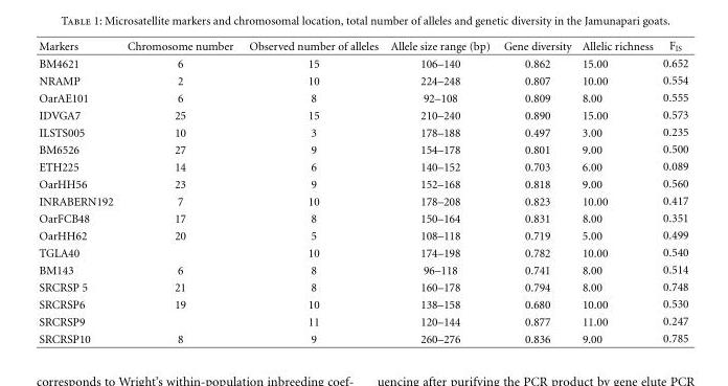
<table><thead><tr><td>Markers</td><td>Chromosome number</td><td>Observed number of alleles</td><td>Allele size range (bp)</td><td>Gene diversity</td><td>Allelic richness</td><td>F<sub>IS</sub></td></tr></thead><tbody><tr><td>BM4621</td><td>6</td><td>15</td><td>106–140</td><td>0.862</td><td>15.00</td><td>0.652</td></tr><tr><td>NRAMP</td><td>2</td><td>10</td><td>224–248</td><td>0.807</td><td>10.00</td><td>0.554</td></tr><tr><td>OarAE101</td><td>6</td><td>8</td><td>92–108</td><td>0.809</td><td>8.00</td><td>0.555</td></tr><tr><td>IDVGA7</td><td>25</td><td>15</td><td>210–240</td><td>0.890</td><td>15.00</td><td>0.573</td></tr><tr><td>ILSTS005</td><td>10</td><td>3</td><td>178–188</td><td>0.497</td><td>3.00</td><td>0.235</td></tr><tr><td>BM6526</td><td>27</td><td>9</td><td>154–178</td><td>0.801</td><td>9.00</td><td>0.500</td></tr><tr><td>ETH225</td><td>14</td><td>6</td><td>140–152</td><td>0.703</td><td>6.00</td><td>0.089</td></tr><tr><td>OarHH56</td><td>23</td><td>9</td><td>152–168</td><td>0.818</td><td>9.00</td><td>0.560</td></tr><tr><td>INRABERN192</td><td>7</td><td>10</td><td>178–208</td><td>0.823</td><td>10.00</td><td>0.417</td></tr><tr><td>OarFCB48</td><td>17</td><td>8</td><td>150–164</td><td>0.831</td><td>8.00</td><td>0.351</td></tr><tr><td>OarHH62</td><td>20</td><td>5</td><td>108–118</td><td>0.719</td><td>5.00</td><td>0.499</td></tr><tr><td>TGLA40</td><td></td><td>10</td><td>174–198</td><td>0.782</td><td>10.00</td><td>0.540</td></tr><tr><td>BM143</td><td>6</td><td>8</td><td>96–118</td><td>0.741</td><td>8.00</td><td>0.514</td></tr><tr><td>SRCRSP 5</td><td>21</td><td>8</td><td>160–178</td><td>0.794</td><td>8.00</td><td>0.748</td></tr><tr><td>SRCRSP6</td><td>19</td><td>10</td><td>138–158</td><td>0.680</td><td>10.00</td><td>0.530</td></tr><tr><td>SRCRSP9</td><td></td><td>11</td><td>120–144</td><td>0.877</td><td>11.00</td><td>0.247</td></tr><tr><td>SRCRSP10</td><td>8</td><td>9</td><td>260–276</td><td>0.836</td><td>9.00</td><td>0.785</td></tr></tbody></table>